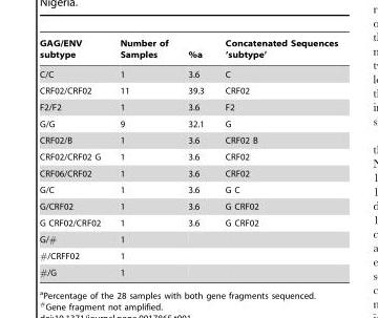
<table><thead><tr><td>GAG/ENV subtype</td><td>Number of Samples</td><td>%<sup>a</sup></td><td>Concatenated Sequences ‘subtype’</td></tr></thead><tbody><tr><td>C/C</td><td>1</td><td>3.6</td><td>C</td></tr><tr><td>CRF02/CRF02</td><td>11</td><td>39.3</td><td>CRF02</td></tr><tr><td>F2/F2</td><td>1</td><td>3.6</td><td>F2</td></tr><tr><td>G/G</td><td>9</td><td>32.1</td><td>G</td></tr><tr><td>CRF02/B</td><td>1</td><td>3.6</td><td>CRF02 B</td></tr><tr><td>CRF02/CRF02 G</td><td>1</td><td>3.6</td><td>CRF02</td></tr><tr><td>CRF06/CRF02</td><td>1</td><td>3.6</td><td>CRF02</td></tr><tr><td>G/C</td><td>1</td><td>3.6</td><td>G C</td></tr><tr><td>G/CRF02</td><td>1</td><td>3.6</td><td>G CRF02</td></tr><tr><td>G CRF02/CRF02</td><td>1</td><td>3.6</td><td>G CRF02</td></tr><tr><td>G/#</td><td>1</td><td></td><td></td></tr><tr><td>#/CRFF02</td><td>1</td><td></td><td></td></tr><tr><td>#/G</td><td>1</td><td></td><td></td></tr></tbody></table>